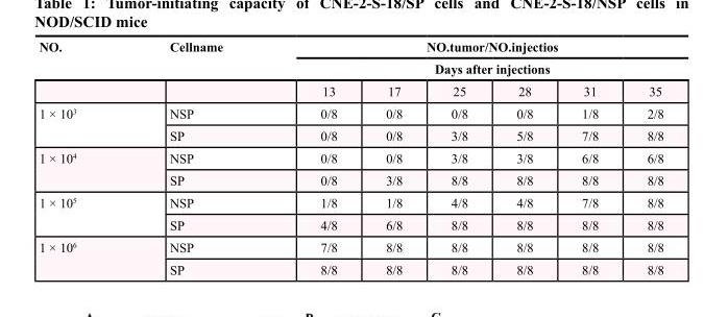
<table><thead><tr><td rowspan="3">NO.</td><td rowspan="3">Cellname</td><td rowspan="2" colspan="6">NO.tumor/NO.injectios Days after injections</td></tr><tr></tr><tr><td>13</td><td>17</td><td>25</td><td>28</td><td>31</td><td>35</td></tr></thead><tbody><tr><td rowspan="2">1 × 10<sup>3</sup></td><td>NSP</td><td>0/8</td><td>0/8</td><td>0/8</td><td>0/8</td><td>1/8</td><td>2/8</td></tr><tr><td>SP</td><td>0/8</td><td>0/8</td><td>3/8</td><td>5/8</td><td>7/8</td><td>8/8</td></tr><tr><td rowspan="2">1 × 10<sup>4</sup></td><td>NSP</td><td>0/8</td><td>0/8</td><td>3/8</td><td>3/8</td><td>6/8</td><td>6/8</td></tr><tr><td>SP</td><td>0/8</td><td>3/8</td><td>8/8</td><td>8/8</td><td>8/8</td><td>8/8</td></tr><tr><td rowspan="2">1 × 10<sup>5</sup></td><td>NSP</td><td>1/8</td><td>1/8</td><td>4/8</td><td>4/8</td><td>7/8</td><td>8/8</td></tr><tr><td>SP</td><td>4/8</td><td>6/8</td><td>8/8</td><td>8/8</td><td>8/8</td><td>8/8</td></tr><tr><td rowspan="2">1 × 10<sup>6</sup></td><td>NSP</td><td>7/8</td><td>8/8</td><td>8/8</td><td>8/8</td><td>8/8</td><td>8/8</td></tr><tr><td>SP</td><td>8/8</td><td>8/8</td><td>8/8</td><td>8/8</td><td>8/8</td><td>8/8</td></tr></tbody></table>